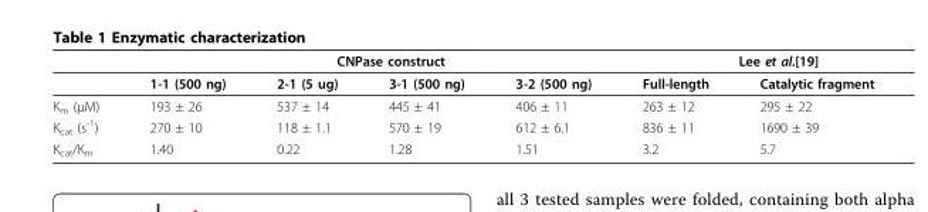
<table><thead><tr><td rowspan="2"></td><td colspan="4">CNPase construct</td><td colspan="2">Lee et al.[19]</td></tr><tr><td>1-1 (500 ng)</td><td>2-1 (5 ug)</td><td>3-1 (500 ng)</td><td>3-2 (500 ng)</td><td>Full-length</td><td>Catalytic fragment</td></tr></thead><tbody><tr><td>K<sub>m</sub> (μM)</td><td>193 ± 26</td><td>537 ± 14</td><td>445 ± 41</td><td>406 ± 11</td><td>263 ± 12</td><td>295 ± 22</td></tr><tr><td>K<sub>cat</sub> (s<sup>-1</sup>)</td><td>270 ± 10</td><td>118 ± 1.1</td><td>570 ± 19</td><td>612 ± 6.1</td><td>836 ± 11</td><td>1690 ± 39</td></tr><tr><td>K<sub>cat</sub>/K<sub>m</sub></td><td>1.40</td><td>0.22</td><td>1.28</td><td>1.51</td><td>3.2</td><td>5.7</td></tr></tbody></table>